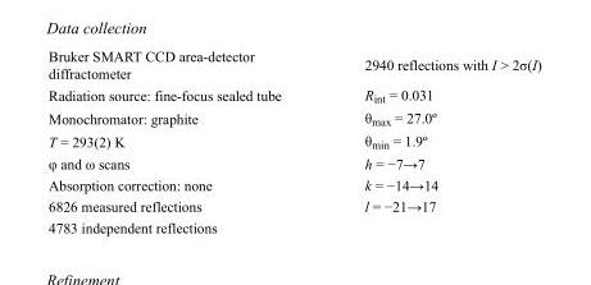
<table><tbody><tr><td>Bruker SMART CCD area-detector diffractometer</td><td>2940 reflections with I &gt; 2σ(I)</td></tr><tr><td>Radiation source: fine-focus sealed tube</td><td>R<sub>int</sub> = 0.031</td></tr><tr><td>Monochromator: graphite</td><td>θ<sub>max</sub> = 27.0º</td></tr><tr><td>T = 293(2) K</td><td>θ<sub>min</sub> = 1.9º</td></tr><tr><td>φ and ω scans</td><td>h = −7→7</td></tr><tr><td>Absorption correction: none</td><td>k = −14→14</td></tr><tr><td>6826 measured reflections</td><td>l = −21→17</td></tr><tr><td>4783 independent reflections</td><td></td></tr></tbody></table>